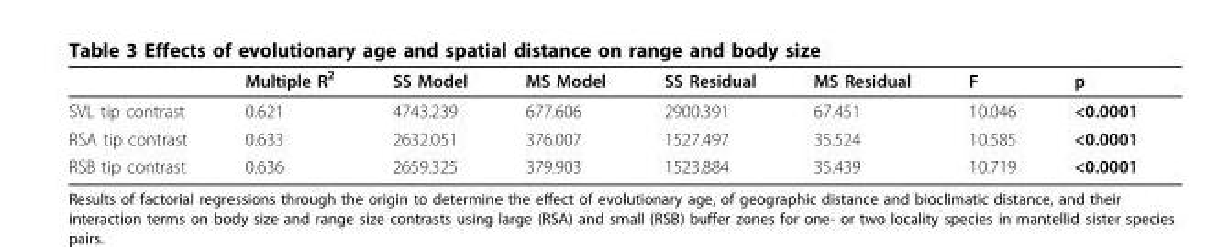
<table><thead><tr><td></td><td>Multiple R<sup>2</sup></td><td>SS Model</td><td>MS Model</td><td>SS Residual</td><td>MS Residual</td><td>F</td><td>p</td></tr></thead><tbody><tr><td>SVL tip contrast</td><td>0.621</td><td>4743.239</td><td>677.606</td><td>2900.391</td><td>67.451</td><td>10.046</td><td>&lt;0.0001</td></tr><tr><td>RSA tip contrast</td><td>0.633</td><td>2632.051</td><td>376.007</td><td>1527.497</td><td>35.524</td><td>10.585</td><td>&lt;0.0001</td></tr><tr><td>RSB tip contrast</td><td>0.636</td><td>2659.325</td><td>379.903</td><td>1523.884</td><td>35.439</td><td>10.719</td><td>&lt;0.0001</td></tr></tbody></table>